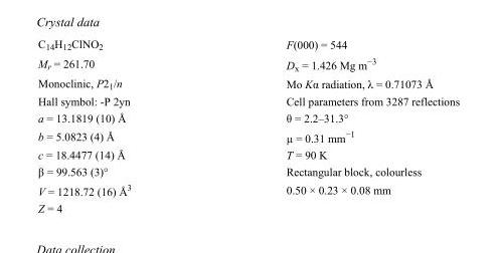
<table><tbody><tr><td>C<sub>14</sub>H<sub>12</sub>ClNO<sub>2</sub></td><td>F(000) = 544</td></tr><tr><td>M<sub>r</sub> = 261.70</td><td>D<sub>x</sub> = 1.426 Mg m<sup>−3</sup></td></tr><tr><td>Monoclinic, P2<sub>1</sub>/n</td><td>Mo Kα radiation, λ = 0.71073 Å</td></tr><tr><td>Hall symbol: -P 2yn</td><td>Cell parameters from 3287 reflections</td></tr><tr><td>a = 13.1819 (10) Å</td><td>θ = 2.2–31.3°</td></tr><tr><td>b = 5.0823 (4) Å</td><td>µ = 0.31 mm<sup>−1</sup></td></tr><tr><td>c = 18.4477 (14) Å</td><td>T = 90 K</td></tr><tr><td>β = 99.563 (3)°</td><td>Rectangular block, colourless</td></tr><tr><td>V = 1218.72 (16) Å<sup>3</sup></td><td>0.50 × 0.23 × 0.08 mm</td></tr><tr><td>Z = 4</td><td></td></tr></tbody></table>